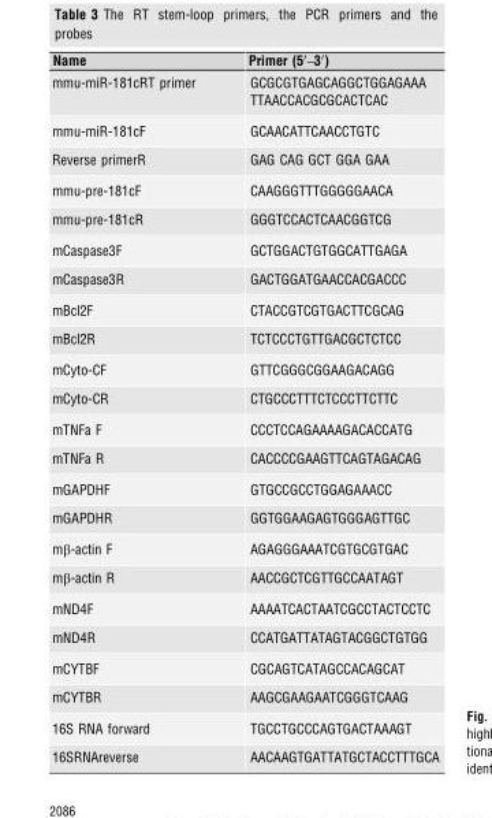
<table><thead><tr><td>Name</td><td>Primer (5′–3′)</td></tr></thead><tbody><tr><td>mmu-miR-181cRT primer</td><td>GCGCGTGAGCAGGCTGGAGAAA TTAACCACGCGCACTCAC</td></tr><tr><td>mmu-miR-181cF</td><td>GCAACATTCAACCTGTC</td></tr><tr><td>Reverse primerR</td><td>GAG CAG GCT GGA GAA</td></tr><tr><td>mmu-pre-181cF</td><td>CAAGGGTTTGGGGGAACA</td></tr><tr><td>mmu-pre-181cR</td><td>GGGTCCACTCAACGGTCG</td></tr><tr><td>mCaspase3F</td><td>GCTGGACTGTGGCATTGAGA</td></tr><tr><td>mCaspase3R</td><td>GACTGGATGAACCACGACCC</td></tr><tr><td>mBcl2F</td><td>CTACCGTCGTGACTTCGCAG</td></tr><tr><td>mBcl2R</td><td>TCTCCCTGTTGACGCTCTCC</td></tr><tr><td>mCyto-CF</td><td>GTTCGGGCGGAAGACAGG</td></tr><tr><td>mCyto-CR</td><td>CTGCCCTTTCTCCCTTCTTC</td></tr><tr><td>mTNFa F</td><td>CCCTCCAGAAAAGACACCATG</td></tr><tr><td>mTNFa R</td><td>CACCCCGAAGTTCAGTAGACAG</td></tr><tr><td>mGAPDHF</td><td>GTGCCGCCTGGAGAAACC</td></tr><tr><td>mGAPDHR</td><td>GGTGGAAGAGTGGGAGTTGC</td></tr><tr><td>mβ-actin F</td><td>AGAGGGAAATCGTGCGTGAC</td></tr><tr><td>mβ-actin R</td><td>AACCGCTCGTTGCCAATAGT</td></tr><tr><td>mND4F</td><td>AAAATCACTAATCGCCTACTCCTC</td></tr><tr><td>mND4R</td><td>CCATGATTATAGTACGGCTGTGG</td></tr><tr><td>mCYTBF</td><td>CGCAGTCATAGCCACAGCAT</td></tr><tr><td>mCYTBR</td><td>AAGCGAAGAATCGGGTCAAG</td></tr><tr><td>16S RNA forward</td><td>TGCCTGCCCAGTGACTAAAGT</td></tr><tr><td>16SRNAreverse</td><td>AACAAGTGATTATGCTACCTTTGCA</td></tr></tbody></table>